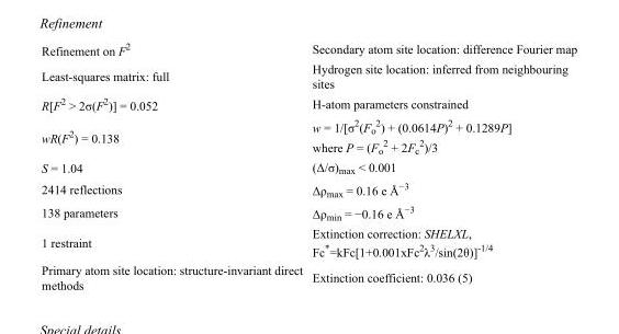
<table><tbody><tr><td>Refinement on F<sup>2</sup></td><td>Secondary atom site location: difference Fourier map</td></tr><tr><td>Least-squares matrix: full</td><td>Hydrogen site location: inferred from neighbouring sites</td></tr><tr><td>R[F<sup>2</sup> &gt; 2σ(F<sup>2</sup>)] = 0.052</td><td>H-atom parameters constrained</td></tr><tr><td>wR(F<sup>2</sup>) = 0.138</td><td>w = 1/[σ<sup>2</sup>(F<sub>o</sub> <sup>2</sup>) + (0.0614P)<sup>2</sup> + 0.1289P] where P = (F<sub>o</sub> <sup>2</sup> + 2F<sub>c</sub> <sup>2</sup>)/3</td></tr><tr><td>S = 1.04</td><td>(Δ/σ)<sub>max</sub> &lt; 0.001</td></tr><tr><td>2414 reflections</td><td>Δρ<sub>max</sub> = 0.16 e Å<sup>−3</sup></td></tr><tr><td>138 parameters</td><td>Δρ<sub>min</sub> = −0.16 e Å<sup>−3</sup></td></tr><tr><td>1 restraint</td><td>Extinction correction: SHELXL, Fc*=kFc[1+0.001xFc<sup>2</sup>λ<sup>3</sup>/sin(2θ)]<sup>-1/4</sup></td></tr><tr><td>Primary atom site location: structure-invariant direct methods</td><td>Extinction coefficient: 0.036 (5)</td></tr></tbody></table>